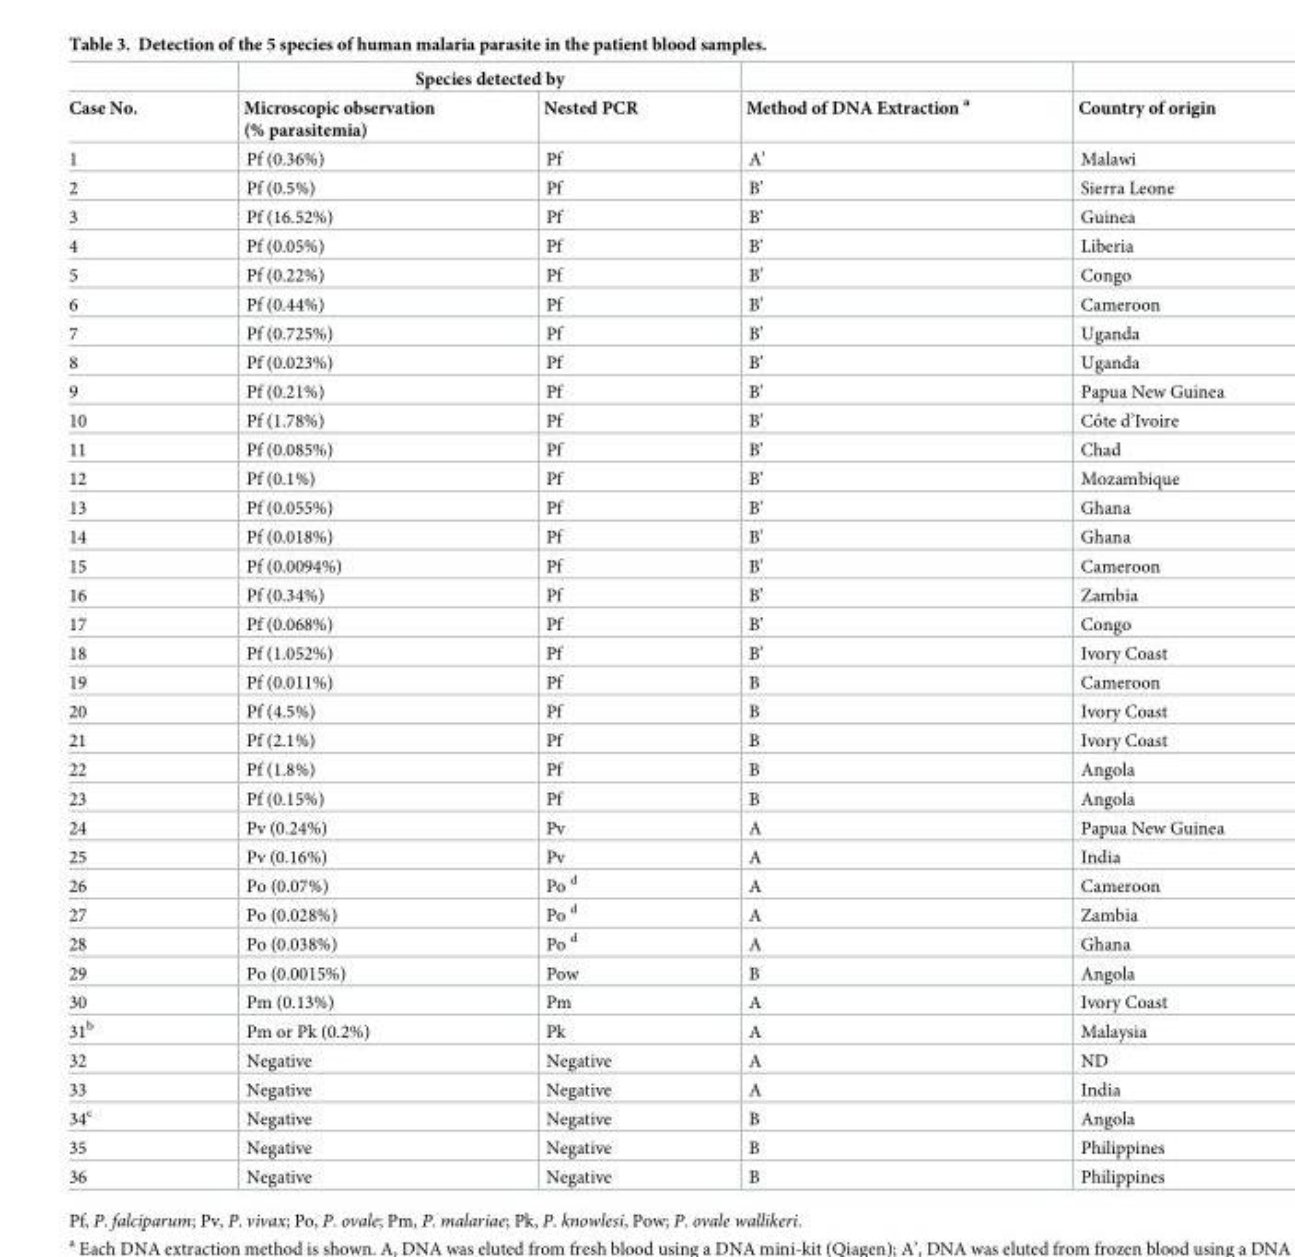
<table><thead><tr><td rowspan="2">Case No.</td><td colspan="2">Species detected by</td><td rowspan="2">Method of DNA Extraction <sup>a</sup></td><td rowspan="2">Country of origin</td></tr><tr><td>Microscopic observation (% parasitemia)</td><td>Nested PCR</td></tr></thead><tbody><tr><td>1</td><td>Pf (0.36%)</td><td>Pf</td><td>A’</td><td>Malawi</td></tr><tr><td>2</td><td>Pf (0.5%)</td><td>Pf</td><td>B’</td><td>Sierra Leone</td></tr><tr><td>3</td><td>Pf (16.52%)</td><td>Pf</td><td>B’</td><td>Guinea</td></tr><tr><td>4</td><td>Pf (0.05%)</td><td>Pf</td><td>B’</td><td>Liberia</td></tr><tr><td>5</td><td>Pf (0.22%)</td><td>Pf</td><td>B’</td><td>Congo</td></tr><tr><td>6</td><td>Pf (0.44%)</td><td>Pf</td><td>B’</td><td>Cameroon</td></tr><tr><td>7</td><td>Pf (0.725%)</td><td>Pf</td><td>B’</td><td>Uganda</td></tr><tr><td>8</td><td>Pf (0.023%)</td><td>Pf</td><td>B’</td><td>Uganda</td></tr><tr><td>9</td><td>Pf (0.21%)</td><td>Pf</td><td>B’</td><td>Papua New Guinea</td></tr><tr><td>10</td><td>Pf (1.78%)</td><td>Pf</td><td>B’</td><td>Coˆte d’Ivoire</td></tr><tr><td>11</td><td>Pf (0.085%)</td><td>Pf</td><td>B’</td><td>Chad</td></tr><tr><td>12</td><td>Pf (0.1%)</td><td>Pf</td><td>B’</td><td>Mozambique</td></tr><tr><td>13</td><td>Pf (0.055%)</td><td>Pf</td><td>B’</td><td>Ghana</td></tr><tr><td>14</td><td>Pf (0.018%)</td><td>Pf</td><td>B’</td><td>Ghana</td></tr><tr><td>15</td><td>Pf (0.0094%)</td><td>Pf</td><td>B’</td><td>Cameroon</td></tr><tr><td>16</td><td>Pf (0.34%)</td><td>Pf</td><td>B’</td><td>Zambia</td></tr><tr><td>17</td><td>Pf (0.068%)</td><td>Pf</td><td>B’</td><td>Congo</td></tr><tr><td>18</td><td>Pf (1.052%)</td><td>Pf</td><td>B’</td><td>Ivory Coast</td></tr><tr><td>19</td><td>Pf (0.011%)</td><td>Pf</td><td>B</td><td>Cameroon</td></tr><tr><td>20</td><td>Pf (4.5%)</td><td>Pf</td><td>B</td><td>Ivory Coast</td></tr><tr><td>21</td><td>Pf (2.1%)</td><td>Pf</td><td>B</td><td>Ivory Coast</td></tr><tr><td>22</td><td>Pf (1.8%)</td><td>Pf</td><td>B</td><td>Angola</td></tr><tr><td>23</td><td>Pf (0.15%)</td><td>Pf</td><td>B</td><td>Angola</td></tr><tr><td>24</td><td>Pv (0.24%)</td><td>Pv</td><td>A</td><td>Papua New Guinea</td></tr><tr><td>25</td><td>Pv (0.16%)</td><td>Pv</td><td>A</td><td>India</td></tr><tr><td>26</td><td>Po (0.07%)</td><td>Po <sup>d</sup></td><td>A</td><td>Cameroon</td></tr><tr><td>27</td><td>Po (0.028%)</td><td>Po <sup>d</sup></td><td>A</td><td>Zambia</td></tr><tr><td>28</td><td>Po (0.038%)</td><td>Po <sup>d</sup></td><td>A</td><td>Ghana</td></tr><tr><td>29</td><td>Po (0.0015%)</td><td>Pow</td><td>B</td><td>Angola</td></tr><tr><td>30</td><td>Pm (0.13%)</td><td>Pm</td><td>A</td><td>Ivory Coast</td></tr><tr><td>31<sup>b</sup></td><td>Pm or Pk (0.2%)</td><td>Pk</td><td>A</td><td>Malaysia</td></tr><tr><td>32</td><td>Negative</td><td>Negative</td><td>A</td><td>ND</td></tr><tr><td>33</td><td>Negative</td><td>Negative</td><td>A</td><td>India</td></tr><tr><td>34<sup>c</sup></td><td>Negative</td><td>Negative</td><td>B</td><td>Angola</td></tr><tr><td>35</td><td>Negative</td><td>Negative</td><td>B</td><td>Philippines</td></tr><tr><td>36</td><td>Negative</td><td>Negative</td><td>B</td><td>Philippines</td></tr></tbody></table>